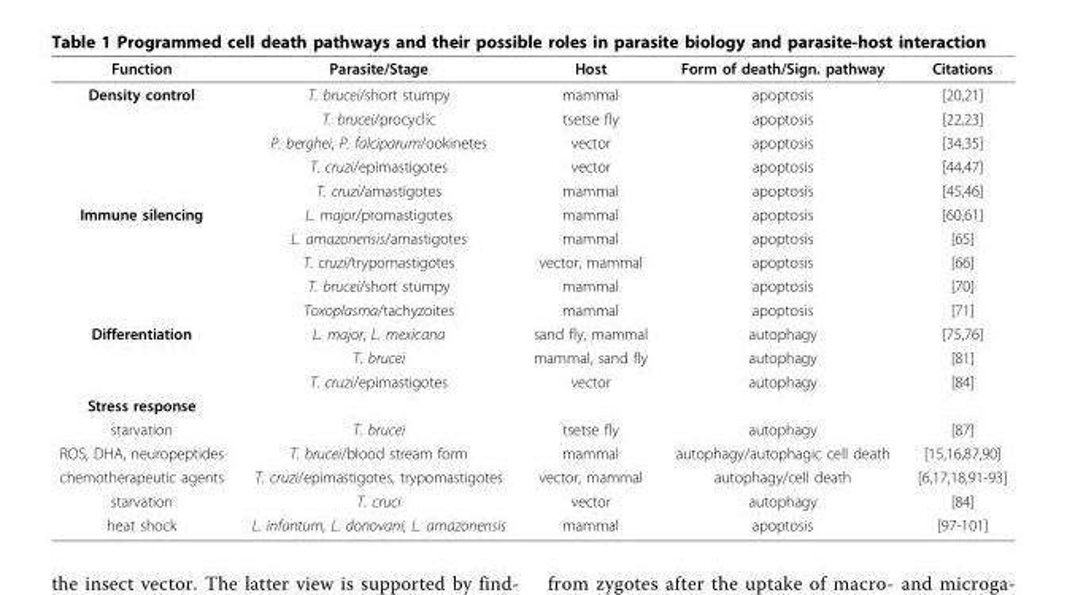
<table><thead><tr><td>Function</td><td>Parasite/Stage</td><td>Host</td><td>Form of death/Sign. pathway</td><td>Citations</td></tr></thead><tbody><tr><td rowspan="5">Density control</td><td>T. brucei/short stumpy</td><td>mammal</td><td>apoptosis</td><td>[20,21]</td></tr><tr><td>T. brucei/procyclic</td><td>tsetse fly</td><td>apoptosis</td><td>[22,23]</td></tr><tr><td>P. berghei, P. falciparum/ookinetes</td><td>vector</td><td>apoptosis</td><td>[34,35]</td></tr><tr><td>T. cruzi/epimastigotes</td><td>vector</td><td>apoptosis</td><td>[44,47]</td></tr><tr><td>T. cruzi/amastigotes</td><td>mammal</td><td>apoptosis</td><td>[45,46]</td></tr><tr><td rowspan="5">Immune silencing</td><td>L. major/promastigotes</td><td>mammal</td><td>apoptosis</td><td>[60,61]</td></tr><tr><td>L. amazonensis/amastigotes</td><td>mammal</td><td>apoptosis</td><td>[65]</td></tr><tr><td>T. cruzi/trypomastigotes</td><td>vector, mammal</td><td>apoptosis</td><td>[66]</td></tr><tr><td>T. brucei/short stumpy</td><td>mammal</td><td>apoptosis</td><td>[70]</td></tr><tr><td>Toxoplasma/tachyzoites</td><td>mammal</td><td>apoptosis</td><td>[71]</td></tr><tr><td rowspan="3">Differentiation</td><td>L. major, L. mexicana</td><td>sand fly, mammal</td><td>autophagy</td><td>[75,76]</td></tr><tr><td>T. brucei</td><td>mammal, sand fly</td><td>autophagy</td><td>[81]</td></tr><tr><td>T. cruzi/epimastigotes</td><td>vector</td><td>autophagy</td><td>[84]</td></tr><tr><td colspan="5">Stress response</td></tr><tr><td>starvation</td><td>T. brucei</td><td>tsetse fly</td><td>autophagy</td><td>[87]</td></tr><tr><td>ROS, DHA, neuropeptides</td><td>T. brucei/blood stream form</td><td>mammal</td><td>autophagy/autophagic cell death</td><td>[15,16,87,90]</td></tr><tr><td>chemotherapeutic agents</td><td>T. cruzi/epimastigotes, trypomastigotes</td><td>vector, mammal</td><td>autophagy/cell death</td><td>[6,17,18,91-93]</td></tr><tr><td>starvation</td><td>T. cruci</td><td>vector</td><td>autophagy</td><td>[84]</td></tr><tr><td>heat shock</td><td>L. infantum, L. donovani, L. amazonensis</td><td>mammal</td><td>apoptosis</td><td>[97-101]</td></tr></tbody></table>